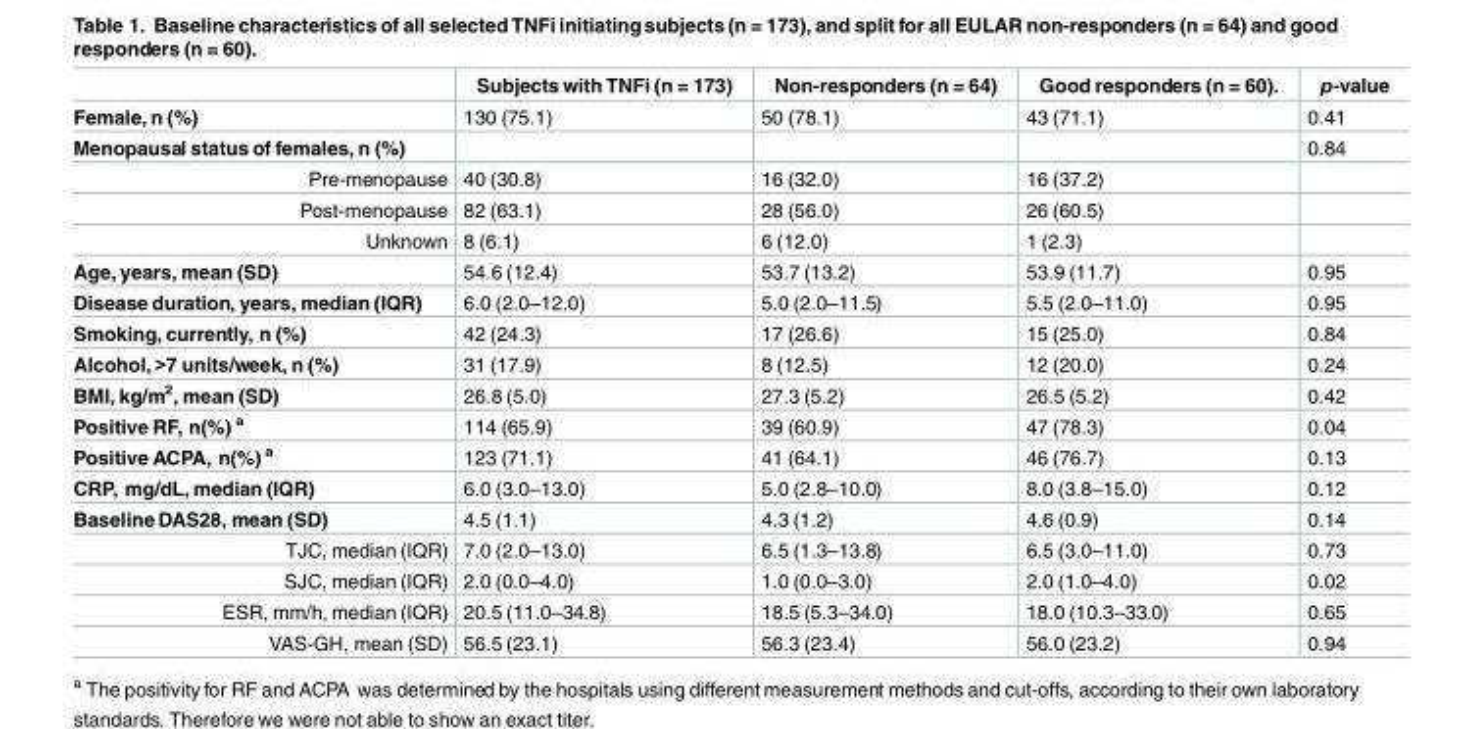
<table><thead><tr><td></td><td>Subjects with TNFi (n = 173)</td><td>Non-responders (n = 64)</td><td>Good responders (n = 60).</td><td>p-value</td></tr></thead><tbody><tr><td>Female, n (%)</td><td>130 (75.1)</td><td>50 (78.1)</td><td>43 (71.1)</td><td>0.41</td></tr><tr><td>Menopausal status of females, n (%)</td><td></td><td></td><td></td><td>0.84</td></tr><tr><td>Pre-menopause</td><td>40 (30.8)</td><td>16 (32.0)</td><td>16 (37.2)</td><td></td></tr><tr><td>Post-menopause</td><td>82 (63.1)</td><td>28 (56.0)</td><td>26 (60.5)</td><td></td></tr><tr><td>Unknown</td><td>8 (6.1)</td><td>6 (12.0)</td><td>1 (2.3)</td><td></td></tr><tr><td>Age, years, mean (SD)</td><td>54.6 (12.4)</td><td>53.7 (13.2)</td><td>53.9 (11.7)</td><td>0.95</td></tr><tr><td>Disease duration, years, median (IQR)</td><td>6.0 (2.0–12.0)</td><td>5.0 (2.0–11.5)</td><td>5.5 (2.0–11.0)</td><td>0.95</td></tr><tr><td>Smoking, currently, n (%)</td><td>42 (24.3)</td><td>17 (26.6)</td><td>15 (25.0)</td><td>0.84</td></tr><tr><td>Alcohol, &gt;7 units/week, n (%)</td><td>31 (17.9)</td><td>8 (12.5)</td><td>12 (20.0)</td><td>0.24</td></tr><tr><td>BMI, kg/m<sup>2</sup>, mean (SD)</td><td>26.8 (5.0)</td><td>27.3 (5.2)</td><td>26.5 (5.2)</td><td>0.42</td></tr><tr><td>Positive RF, n(%) <sup>a</sup></td><td>114 (65.9)</td><td>39 (60.9)</td><td>47 (78.3)</td><td>0.04</td></tr><tr><td>Positive ACPA, n(%) <sup>a</sup></td><td>123 (71.1)</td><td>41 (64.1)</td><td>46 (76.7)</td><td>0.13</td></tr><tr><td>CRP, mg/dL, median (IQR)</td><td>6.0 (3.0–13.0)</td><td>5.0 (2.8–10.0)</td><td>8.0 (3.8–15.0)</td><td>0.12</td></tr><tr><td>Baseline DAS28, mean (SD)</td><td>4.5 (1.1)</td><td>4.3 (1.2)</td><td>4.6 (0.9)</td><td>0.14</td></tr><tr><td>TJC, median (IQR)</td><td>7.0 (2.0–13.0)</td><td>6.5 (1.3–13.8)</td><td>6.5 (3.0–11.0)</td><td>0.73</td></tr><tr><td>SJC, median (IQR)</td><td>2.0 (0.0–4.0)</td><td>1.0 (0.0–3.0)</td><td>2.0 (1.0–4.0)</td><td>0.02</td></tr><tr><td>ESR, mm/h, median (IQR)</td><td>20.5 (11.0–34.8)</td><td>18.5 (5.3–34.0)</td><td>18.0 (10.3–33.0)</td><td>0.65</td></tr><tr><td>VAS-GH, mean (SD)</td><td>56.5 (23.1)</td><td>56.3 (23.4)</td><td>56.0 (23.2)</td><td>0.94</td></tr></tbody></table>